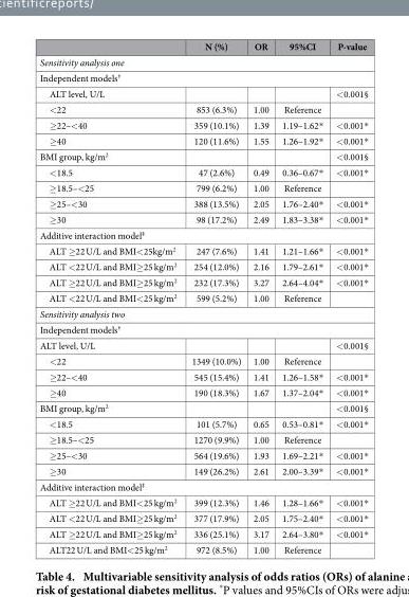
<table><thead><tr><td></td><td>N (%)</td><td>OR</td><td>95%CI</td><td>P-value</td></tr></thead><tbody><tr><td colspan="5">Sensitivity analysis one</td></tr><tr><td colspan="5">Independent models<sup>†</sup></td></tr><tr><td>ALT level, U/L</td><td></td><td></td><td></td><td>&lt; 0.001§</td></tr><tr><td>&lt; 22</td><td>853 (6.3%)</td><td>1.00</td><td>Reference</td><td></td></tr><tr><td>≥ 22–&lt; 40</td><td>359 (10.1%)</td><td>1.39</td><td>1.19–1.62*</td><td>&lt; 0.001*</td></tr><tr><td>≥ 40</td><td>120 (11.6%)</td><td>1.55</td><td>1.26–1.92*</td><td>&lt; 0.001*</td></tr><tr><td>BMI group, kg/m<sup>2</sup></td><td></td><td></td><td></td><td>&lt; 0.001§</td></tr><tr><td>&lt; 18.5</td><td>47 (2.6%)</td><td>0.49</td><td>0.36–0.67*</td><td>&lt; 0.001*</td></tr><tr><td>≥ 18.5–&lt; 25</td><td>799 (6.2%)</td><td>1.00</td><td>Reference</td><td></td></tr><tr><td>≥ 25–&lt; 30</td><td>388 (13.5%)</td><td>2.05</td><td>1.76–2.40*</td><td>&lt; 0.001*</td></tr><tr><td>≥ 30</td><td>98 (17.2%)</td><td>2.49</td><td>1.83–3.38*</td><td>&lt; 0.001*</td></tr><tr><td colspan="5">Additive interaction model<sup>‡</sup></td></tr><tr><td>ALT ≥ 22 U/L and BMI&lt; 25kg/m<sup>2</sup></td><td>247 (7.6%)</td><td>1.41</td><td>1.21–1.66*</td><td>&lt; 0.001*</td></tr><tr><td>ALT &lt; 22 U/L and BMI≥ 25 kg/m<sup>2</sup></td><td>254 (12.0%)</td><td>2.16</td><td>1.79–2.61*</td><td>&lt; 0.001*</td></tr><tr><td>ALT ≥ 22 U/L and BMI≥ 25 kg/m<sup>2</sup></td><td>232 (17.3%)</td><td>3.27</td><td>2.64–4.04*</td><td>&lt; 0.001*</td></tr><tr><td>ALT &lt; 22 U/L and BMI&lt; 25 kg/m<sup>2</sup></td><td>599 (5.2%)</td><td>1.00</td><td>Reference</td><td></td></tr><tr><td colspan="5">Sensitivity analysis two</td></tr><tr><td colspan="5">Independent models<sup>†</sup></td></tr><tr><td>ALT level, U/L</td><td></td><td></td><td></td><td>&lt; 0.001§</td></tr><tr><td>&lt; 22</td><td>1349 (10.0%)</td><td>1.00</td><td>Reference</td><td></td></tr><tr><td>≥ 22–&lt; 40</td><td>545 (15.4%)</td><td>1.41</td><td>1.26–1.58*</td><td>&lt; 0.001*</td></tr><tr><td>≥ 40</td><td>190 (18.3%)</td><td>1.67</td><td>1.37–2.04*</td><td>&lt; 0.001*</td></tr><tr><td>BMI group, kg/m<sup>2</sup></td><td></td><td></td><td></td><td>&lt; 0.001§</td></tr><tr><td>&lt; 18.5</td><td>101 (5.7%)</td><td>0.65</td><td>0.53–0.81*</td><td>&lt; 0.001*</td></tr><tr><td>≥ 18.5–&lt; 25</td><td>1270 (9.9%)</td><td>1.00</td><td>Reference</td><td></td></tr><tr><td>≥ 25–&lt; 30</td><td>564 (19.6%)</td><td>1.93</td><td>1.69–2.21*</td><td>&lt; 0.001*</td></tr><tr><td>≥ 30</td><td>149 (26.2%)</td><td>2.61</td><td>2.00–3.39*</td><td>&lt; 0.001*</td></tr><tr><td colspan="5">Additive interaction model<sup>‡</sup></td></tr><tr><td>ALT ≥ 22 U/L and BMI&lt; 25 kg/m<sup>2</sup></td><td>399 (12.3%)</td><td>1.46</td><td>1.28–1.66*</td><td>&lt; 0.001*</td></tr><tr><td>ALT &lt; 22 U/L and BMI≥ 25 kg/m<sup>2</sup></td><td>377 (17.9%)</td><td>2.05</td><td>1.75–2.40*</td><td>&lt; 0.001*</td></tr><tr><td>ALT ≥ 22 U/L and BMI≥ 25 kg/m<sup>2</sup></td><td>336 (25.1%)</td><td>3.17</td><td>2.64–3.80*</td><td>&lt; 0.001*</td></tr><tr><td>ALT22 U/L and BMI&lt; 25 kg/m<sup>2</sup></td><td>972 (8.5%)</td><td>1.00</td><td>Reference</td><td></td></tr></tbody></table>